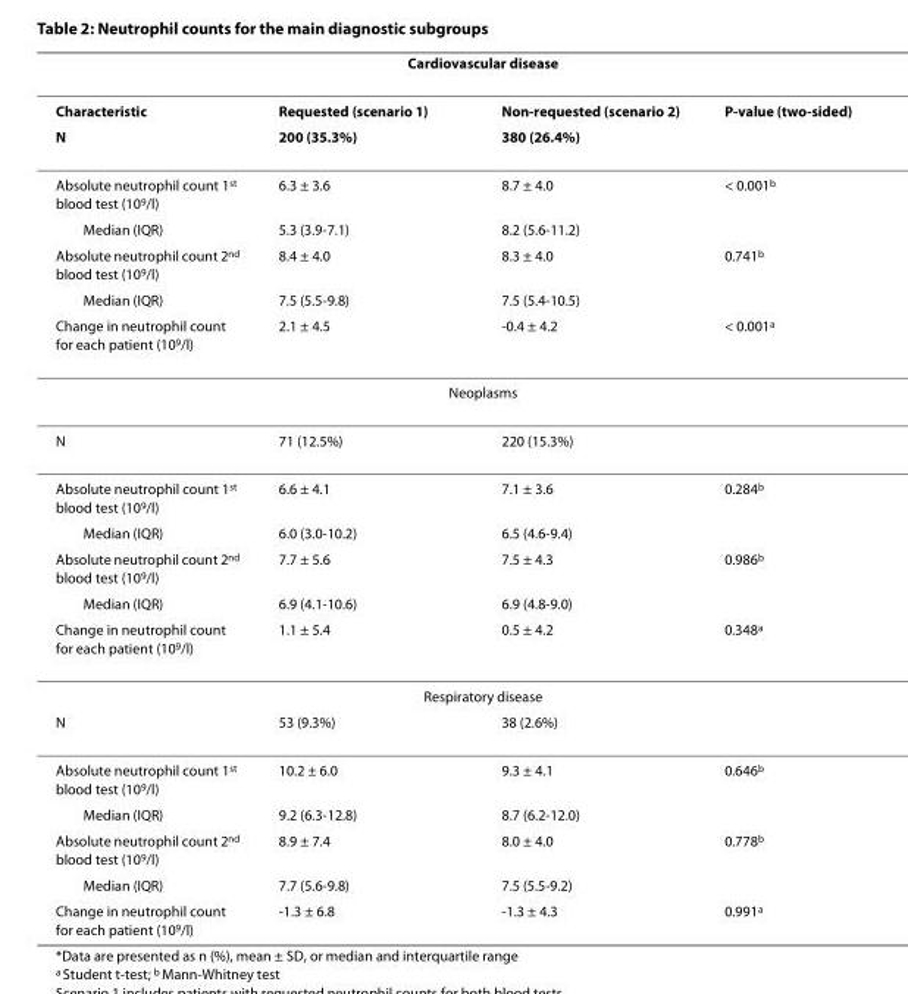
<table><thead><tr><td rowspan="2">Characteristic</td><td colspan="2">Cardiovascular disease</td><td rowspan="2">P-value (two-sided)</td></tr><tr><td>Requested (scenario 1)</td><td>Non-requested (scenario 2)</td></tr></thead><tbody><tr><td>N</td><td>200 (35.3%)</td><td>380 (26.4%)</td><td></td></tr><tr><td>Absolute neutrophil count 1<sup>st</sup> blood test (10<sup>9</sup>/l)</td><td>6.3 ± 3.6</td><td>8.7 ± 4.0</td><td>&lt; 0.001<sup>b</sup></td></tr><tr><td>Median (IQR)</td><td>5.3 (3.9-7.1)</td><td>8.2 (5.6-11.2)</td><td></td></tr><tr><td>Absolute neutrophil count 2<sup>nd</sup> blood test (10<sup>9</sup>/l)</td><td>8.4 ± 4.0</td><td>8.3 ± 4.0</td><td>0.741<sup>b</sup></td></tr><tr><td>Median (IQR)</td><td>7.5 (5.5-9.8)</td><td>7.5 (5.4-10.5)</td><td></td></tr><tr><td rowspan="2">Change in neutrophil count for each patient (10<sup>9</sup>/l)</td><td>2.1 ± 4.5</td><td>-0.4 ± 4.2</td><td>&lt; 0.001<sup>a</sup></td></tr><tr><td colspan="2">Neoplasms</td><td></td></tr><tr><td>N</td><td>71 (12.5%)</td><td>220 (15.3%)</td><td></td></tr><tr><td>Absolute neutrophil count 1<sup>st</sup> blood test (10<sup>9</sup>/l)</td><td>6.6 ± 4.1</td><td>7.1 ± 3.6</td><td>0.284<sup>b</sup></td></tr><tr><td>Median (IQR)</td><td>6.0 (3.0-10.2)</td><td>6.5 (4.6-9.4)</td><td></td></tr><tr><td>Absolute neutrophil count 2<sup>nd</sup> blood test (10<sup>9</sup>/l)</td><td>7.7 ± 5.6</td><td>7.5 ± 4.3</td><td>0.986<sup>b</sup></td></tr><tr><td>Median (IQR)</td><td>6.9 (4.1-10.6)</td><td>6.9 (4.8-9.0)</td><td></td></tr><tr><td rowspan="2">Change in neutrophil count for each patient (10<sup>9</sup>/l)</td><td>1.1 ± 5.4</td><td>0.5 ± 4.2</td><td>0.348<sup>a</sup></td></tr><tr><td colspan="2">Respiratory disease</td><td></td></tr><tr><td>N</td><td>53 (9.3%)</td><td>38 (2.6%)</td><td></td></tr><tr><td>Absolute neutrophil count 1<sup>st</sup> blood test (10<sup>9</sup>/l)</td><td>10.2 ± 6.0</td><td>9.3 ± 4.1</td><td>0.646<sup>b</sup></td></tr><tr><td>Median (IQR)</td><td>9.2 (6.3-12.8)</td><td>8.7 (6.2-12.0)</td><td></td></tr><tr><td>Absolute neutrophil count 2<sup>nd</sup> blood test (10<sup>9</sup>/l)</td><td>8.9 ± 7.4</td><td>8.0 ± 4.0</td><td>0.778<sup>b</sup></td></tr><tr><td>Median (IQR)</td><td>7.7 (5.6-9.8)</td><td>7.5 (5.5-9.2)</td><td></td></tr><tr><td>Change in neutrophil count for each patient (10<sup>9</sup>/l)</td><td>-1.3 ± 6.8</td><td>-1.3 ± 4.3</td><td>0.991<sup>a</sup></td></tr></tbody></table>